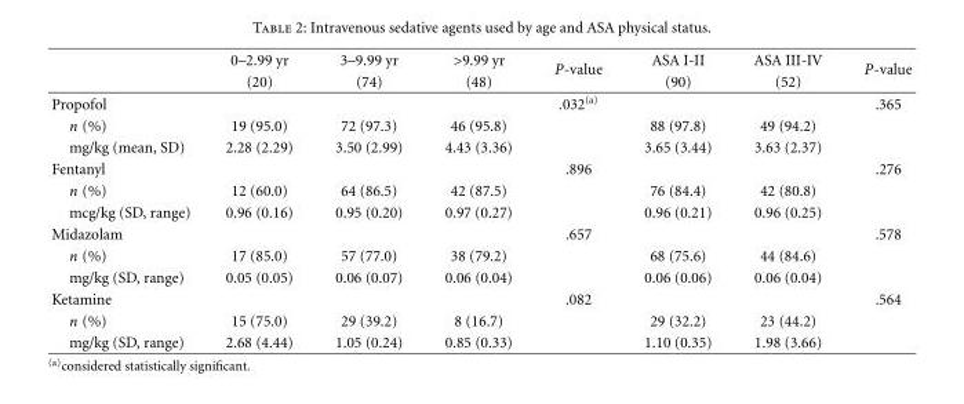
<table><thead><tr><td rowspan="2"></td><td rowspan="2">0–2.99 yr (20)</td><td rowspan="2">3–9.99 yr (74)</td><td rowspan="2">&gt;9.99 yr (48)</td><td rowspan="2">P-value</td><td rowspan="2">ASA I-II (90)</td><td rowspan="2">ASA III-IV (52)</td><td rowspan="2">P-value</td></tr><tr></tr></thead><tbody><tr><td>Propofol</td><td></td><td></td><td></td><td>.032<sup>(a)</sup></td><td></td><td></td><td>.365</td></tr><tr><td>n (%)</td><td>19 (95.0)</td><td>72 (97.3)</td><td>46 (95.8)</td><td></td><td>88 (97.8)</td><td>49 (94.2)</td><td></td></tr><tr><td>mg/kg (mean, SD)</td><td>2.28 (2.29)</td><td>3.50 (2.99)</td><td>4.43 (3.36)</td><td></td><td>3.65 (3.44)</td><td>3.63 (2.37)</td><td></td></tr><tr><td>Fentanyl</td><td></td><td></td><td></td><td>.896</td><td></td><td></td><td>.276</td></tr><tr><td>n (%)</td><td>12 (60.0)</td><td>64 (86.5)</td><td>42 (87.5)</td><td></td><td>76 (84.4)</td><td>42 (80.8)</td><td></td></tr><tr><td>mcg/kg (SD, range)</td><td>0.96 (0.16)</td><td>0.95 (0.20)</td><td>0.97 (0.27)</td><td></td><td>0.96 (0.21)</td><td>0.96 (0.25)</td><td></td></tr><tr><td>Midazolam</td><td></td><td></td><td></td><td>.657</td><td></td><td></td><td>.578</td></tr><tr><td>n (%)</td><td>17 (85.0)</td><td>57 (77.0)</td><td>38 (79.2)</td><td></td><td>68 (75.6)</td><td>44 (84.6)</td><td></td></tr><tr><td>mg/kg (SD, range)</td><td>0.05 (0.05)</td><td>0.06 (0.07)</td><td>0.06 (0.04)</td><td></td><td>0.06 (0.06)</td><td>0.06 (0.04)</td><td></td></tr><tr><td>Ketamine</td><td></td><td></td><td></td><td>.082</td><td></td><td></td><td>.564</td></tr><tr><td>n (%)</td><td>15 (75.0)</td><td>29 (39.2)</td><td>8 (16.7)</td><td></td><td>29 (32.2)</td><td>23 (44.2)</td><td></td></tr><tr><td>mg/kg (SD, range)</td><td>2.68 (4.44)</td><td>1.05 (0.24)</td><td>0.85 (0.33)</td><td></td><td>1.10 (0.35)</td><td>1.98 (3.66)</td><td></td></tr></tbody></table>